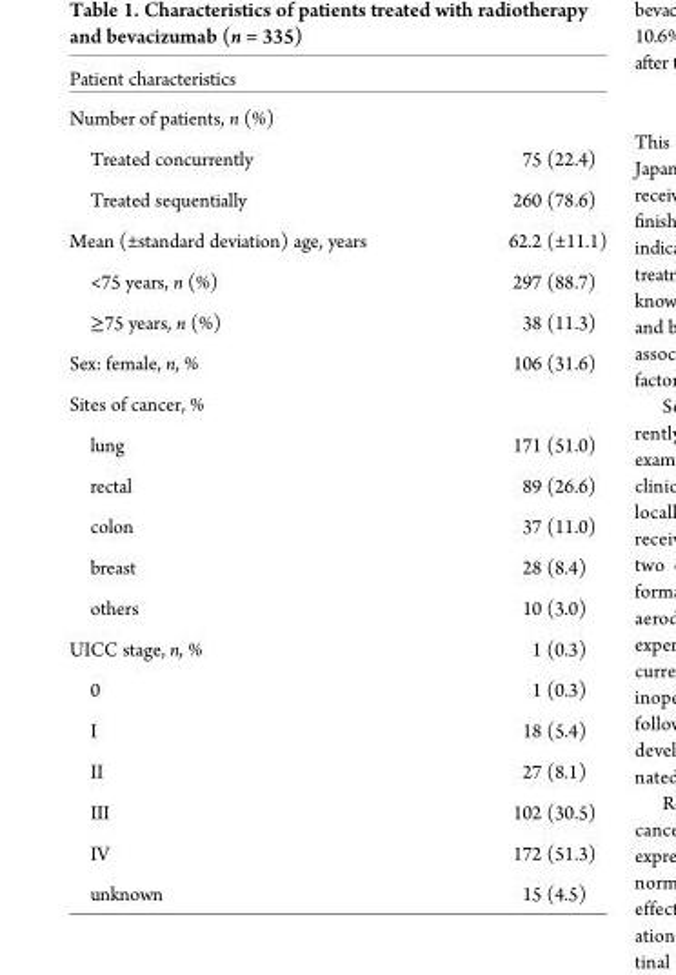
<table><thead><tr><td>Patient characteristics</td><td></td></tr></thead><tbody><tr><td colspan="2">Number of patients, n (%)</td></tr><tr><td>Treated concurrently</td><td>75 (22.4)</td></tr><tr><td>Treated sequentially</td><td>260 (78.6)</td></tr><tr><td>Mean (±standard deviation) age, years</td><td>62.2 (±11.1)</td></tr><tr><td>&lt;75 years, n (%)</td><td>297 (88.7)</td></tr><tr><td>≥75 years, n (%)</td><td>38 (11.3)</td></tr><tr><td>Sex: female, n, %</td><td>106 (31.6)</td></tr><tr><td colspan="2">Sites of cancer, %</td></tr><tr><td>lung</td><td>171 (51.0)</td></tr><tr><td>rectal</td><td>89 (26.6)</td></tr><tr><td>colon</td><td>37 (11.0)</td></tr><tr><td>breast</td><td>28 (8.4)</td></tr><tr><td>others</td><td>10 (3.0)</td></tr><tr><td>UICC stage, n, %</td><td>1 (0.3)</td></tr><tr><td>0</td><td>1 (0.3)</td></tr><tr><td>I</td><td>18 (5.4)</td></tr><tr><td>II</td><td>27 (8.1)</td></tr><tr><td>III</td><td>102 (30.5)</td></tr><tr><td>IV</td><td>172 (51.3)</td></tr><tr><td>unknown</td><td>15 (4.5)</td></tr></tbody></table>